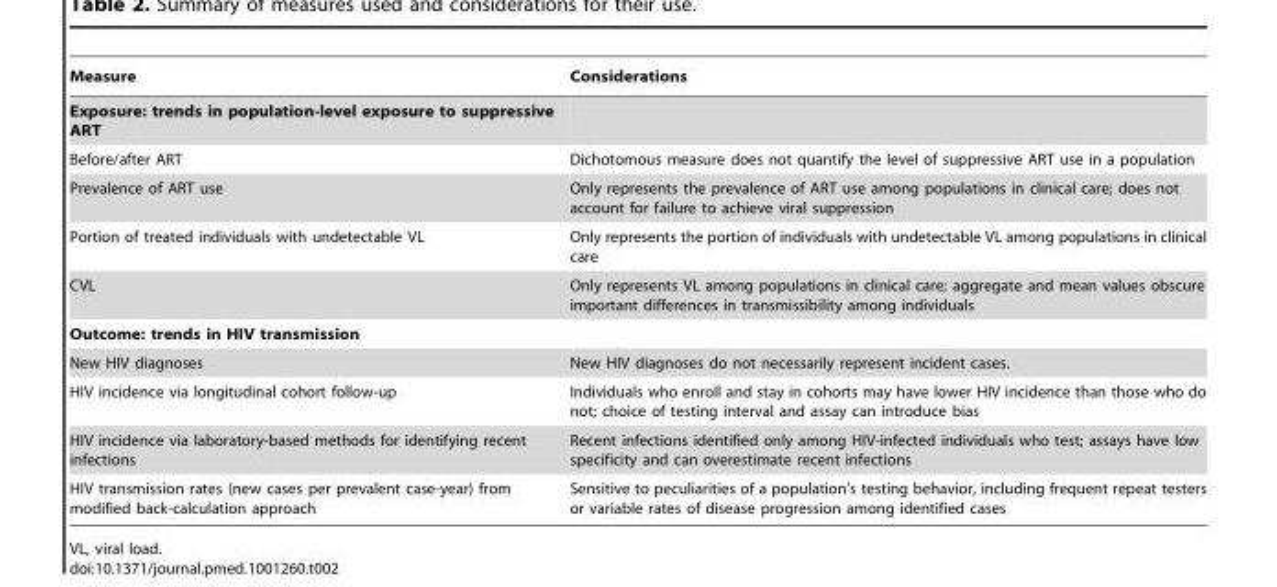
<table><thead><tr><td>Measure</td><td>Considerations</td></tr></thead><tbody><tr><td colspan="2">Exposure: trends in population-level exposure to suppressive ART</td></tr><tr><td>Before/after ART</td><td>Dichotomous measure does not quantify the level of suppressive ART use in a population</td></tr><tr><td>Prevalence of ART use</td><td>Only represents the prevalence of ART use among populations in clinical care; does not account for failure to achieve viral suppression</td></tr><tr><td>Portion of treated individuals with undetectable VL</td><td>Only represents the portion of individuals with undetectable VL among populations in clinical care</td></tr><tr><td>CVL</td><td>Only represents VL among populations in clinical care; aggregate and mean values obscure important differences in transmissibility among individuals</td></tr><tr><td colspan="2">Outcome: trends in HIV transmission</td></tr><tr><td>New HIV diagnoses</td><td>New HIV diagnoses do not necessarily represent incident cases.</td></tr><tr><td>HIV incidence via longitudinal cohort follow-up</td><td>Individuals who enroll and stay in cohorts may have lower HIV incidence than those who do not; choice of testing interval and assay can introduce bias</td></tr><tr><td>HIV incidence via laboratory-based methods for identifying recent infections</td><td>Recent infections identified only among HIV-infected individuals who test; assays have low specificity and can overestimate recent infections</td></tr><tr><td>HIV transmission rates (new cases per prevalent case-year) from modified back-calculation approach</td><td>Sensitive to peculiarities of a population’s testing behavior, including frequent repeat testers or variable rates of disease progression among identified cases</td></tr></tbody></table>